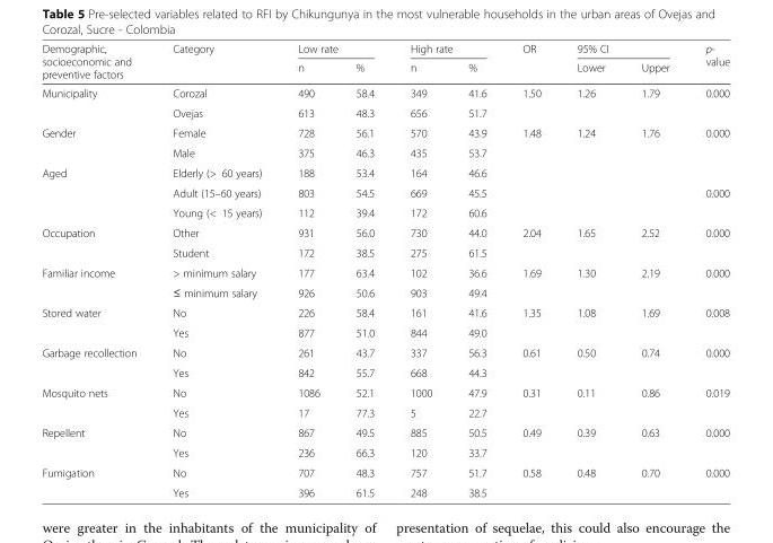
<table><thead><tr><td rowspan="2">Demographic, socioeconomic and preventive factors</td><td rowspan="2">Category</td><td colspan="2">Low rate</td><td colspan="2">High rate</td><td rowspan="2">OR</td><td colspan="2">95% CI</td><td rowspan="2">p- value</td></tr><tr><td>n</td><td>%</td><td>n</td><td>%</td><td>Lower</td><td>Upper</td></tr></thead><tbody><tr><td rowspan="2">Municipality</td><td>Corozal</td><td>490</td><td>58.4</td><td>349</td><td>41.6</td><td rowspan="2">1.50</td><td rowspan="2">1.26</td><td rowspan="2">1.79</td><td rowspan="2">0.000</td></tr><tr><td>Ovejas</td><td>613</td><td>48.3</td><td>656</td><td>51.7</td></tr><tr><td rowspan="2">Gender</td><td>Female</td><td>728</td><td>56.1</td><td>570</td><td>43.9</td><td rowspan="2">1.48</td><td rowspan="2">1.24</td><td rowspan="2">1.76</td><td rowspan="2">0.000</td></tr><tr><td>Male</td><td>375</td><td>46.3</td><td>435</td><td>53.7</td></tr><tr><td rowspan="3">Aged</td><td>Elderly (&gt; 60 years)</td><td>188</td><td>53.4</td><td>164</td><td>46.6</td><td></td><td></td><td></td><td></td></tr><tr><td>Adult (15–60 years)</td><td>803</td><td>54.5</td><td>669</td><td>45.5</td><td rowspan="2"></td><td rowspan="2"></td><td rowspan="2"></td><td rowspan="2">0.000</td></tr><tr><td>Young (&lt; 15 years)</td><td>112</td><td>39.4</td><td>172</td><td>60.6</td></tr><tr><td rowspan="2">Occupation</td><td>Other</td><td>931</td><td>56.0</td><td>730</td><td>44.0</td><td rowspan="2">2.04</td><td rowspan="2">1.65</td><td rowspan="2">2.52</td><td rowspan="2">0.000</td></tr><tr><td>Student</td><td>172</td><td>38.5</td><td>275</td><td>61.5</td></tr><tr><td rowspan="2">Familiar income</td><td>&gt; minimum salary</td><td>177</td><td>63.4</td><td>102</td><td>36.6</td><td rowspan="2">1.69</td><td rowspan="2">1.30</td><td rowspan="2">2.19</td><td rowspan="2">0.000</td></tr><tr><td>≤ minimum salary</td><td>926</td><td>50.6</td><td>903</td><td>49.4</td></tr><tr><td rowspan="2">Stored water</td><td>No</td><td>226</td><td>58.4</td><td>161</td><td>41.6</td><td rowspan="2">1.35</td><td rowspan="2">1.08</td><td rowspan="2">1.69</td><td rowspan="2">0.008</td></tr><tr><td>Yes</td><td>877</td><td>51.0</td><td>844</td><td>49.0</td></tr><tr><td rowspan="2">Garbage recollection</td><td>No</td><td>261</td><td>43.7</td><td>337</td><td>56.3</td><td rowspan="2">0.61</td><td rowspan="2">0.50</td><td rowspan="2">0.74</td><td rowspan="2">0.000</td></tr><tr><td>Yes</td><td>842</td><td>55.7</td><td>668</td><td>44.3</td></tr><tr><td rowspan="2">Mosquito nets</td><td>No</td><td>1086</td><td>52.1</td><td>1000</td><td>47.9</td><td rowspan="2">0.31</td><td rowspan="2">0.11</td><td rowspan="2">0.86</td><td rowspan="2">0.019</td></tr><tr><td>Yes</td><td>17</td><td>77.3</td><td>5</td><td>22.7</td></tr><tr><td rowspan="2">Repellent</td><td>No</td><td>867</td><td>49.5</td><td>885</td><td>50.5</td><td rowspan="2">0.49</td><td rowspan="2">0.39</td><td rowspan="2">0.63</td><td rowspan="2">0.000</td></tr><tr><td>Yes</td><td>236</td><td>66.3</td><td>120</td><td>33.7</td></tr><tr><td rowspan="2">Fumigation</td><td>No</td><td>707</td><td>48.3</td><td>757</td><td>51.7</td><td rowspan="2">0.58</td><td rowspan="2">0.48</td><td rowspan="2">0.70</td><td rowspan="2">0.000</td></tr><tr><td>Yes</td><td>396</td><td>61.5</td><td>248</td><td>38.5</td></tr></tbody></table>